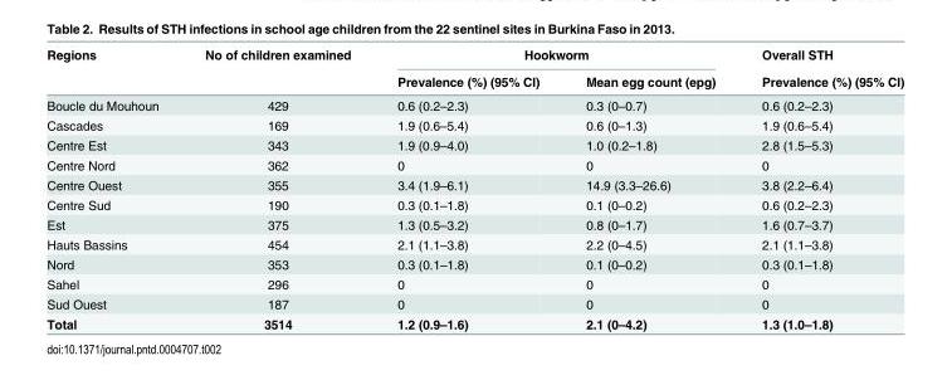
<table><thead><tr><td rowspan="2">Regions</td><td rowspan="2">No of children examined</td><td colspan="2">Hookworm</td><td rowspan="2">Overall STH Prevalence (%) (95% CI)</td></tr><tr><td>Prevalence (%) (95% CI)</td><td>Mean egg count (epg)</td></tr></thead><tbody><tr><td>Boucle du Mouhoun</td><td>429</td><td>0.6 (0.2–2.3)</td><td>0.3 (0–0.7)</td><td>0.6 (0.2–2.3)</td></tr><tr><td>Cascades</td><td>169</td><td>1.9 (0.6–5.4)</td><td>0.6 (0–1.3)</td><td>1.9 (0.6–5.4)</td></tr><tr><td>Centre Est</td><td>343</td><td>1.9 (0.9–4.0)</td><td>1.0 (0.2–1.8)</td><td>2.8 (1.5–5.3)</td></tr><tr><td>Centre Nord</td><td>362</td><td>0</td><td>0</td><td>0</td></tr><tr><td>Centre Ouest</td><td>355</td><td>3.4 (1.9–6.1)</td><td>14.9 (3.3–26.6)</td><td>3.8 (2.2–6.4)</td></tr><tr><td>Centre Sud</td><td>190</td><td>0.3 (0.1–1.8)</td><td>0.1 (0–0.2)</td><td>0.6 (0.2–2.3)</td></tr><tr><td>Est</td><td>375</td><td>1.3 (0.5–3.2)</td><td>0.8 (0–1.7)</td><td>1.6 (0.7–3.7)</td></tr><tr><td>Hauts Bassins</td><td>454</td><td>2.1 (1.1–3.8)</td><td>2.2 (0–4.5)</td><td>2.1 (1.1–3.8)</td></tr><tr><td>Nord</td><td>353</td><td>0.3 (0.1–1.8)</td><td>0.1 (0–0.2)</td><td>0.3 (0.1–1.8)</td></tr><tr><td>Sahel</td><td>296</td><td>0</td><td>0</td><td>0</td></tr><tr><td>Sud Ouest</td><td>187</td><td>0</td><td>0</td><td>0</td></tr><tr><td>Total</td><td>3514</td><td>1.2 (0.9–1.6)</td><td>2.1 (0–4.2)</td><td>1.3 (1.0–1.8)</td></tr></tbody></table>